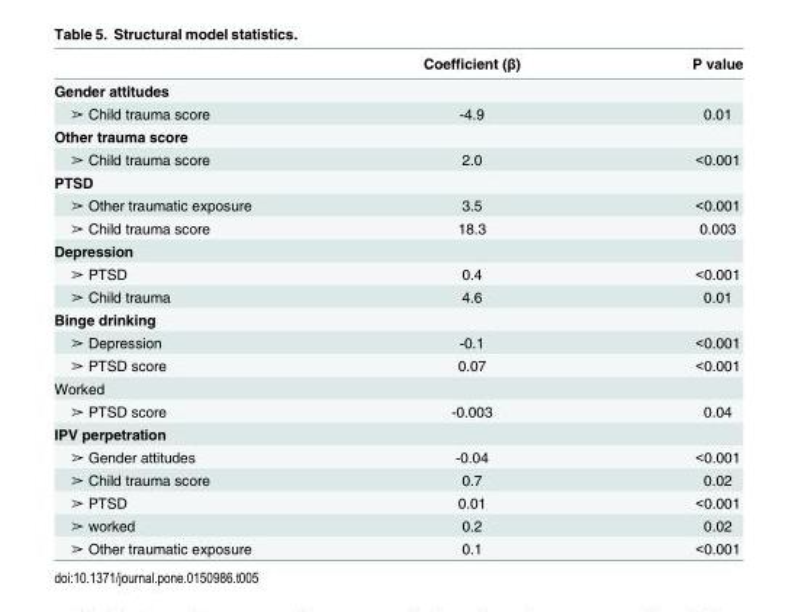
<table><thead><tr><td></td><td>Coefficient (β)</td><td>P value</td></tr></thead><tbody><tr><td colspan="3">Gender attitudes</td></tr><tr><td>➢ Child trauma score</td><td>-4.9</td><td>0.01</td></tr><tr><td colspan="3">Other trauma score</td></tr><tr><td>➢ Child trauma score</td><td>2.0</td><td>&lt;0.001</td></tr><tr><td colspan="3">PTSD</td></tr><tr><td>➢ Other traumatic exposure</td><td>3.5</td><td>&lt;0.001</td></tr><tr><td>➢ Child trauma score</td><td>18.3</td><td>0.003</td></tr><tr><td colspan="3">Depression</td></tr><tr><td>➢ PTSD</td><td>0.4</td><td>&lt;0.001</td></tr><tr><td>➢ Child trauma</td><td>4.6</td><td>0.01</td></tr><tr><td colspan="3">Binge drinking</td></tr><tr><td>➢ Depression</td><td>-0.1</td><td>&lt;0.001</td></tr><tr><td>➢ PTSD score</td><td>0.07</td><td>&lt;0.001</td></tr><tr><td colspan="3">Worked</td></tr><tr><td>➢ PTSD score</td><td>-0.003</td><td>0.04</td></tr><tr><td colspan="3">IPV perpetration</td></tr><tr><td>➢ Gender attitudes</td><td>-0.04</td><td>&lt;0.001</td></tr><tr><td>➢ Child trauma score</td><td>0.7</td><td>0.02</td></tr><tr><td>➢ PTSD</td><td>0.01</td><td>&lt;0.001</td></tr><tr><td>➢ worked</td><td>0.2</td><td>0.02</td></tr><tr><td>➢ Other traumatic exposure</td><td>0.1</td><td>&lt;0.001</td></tr></tbody></table>